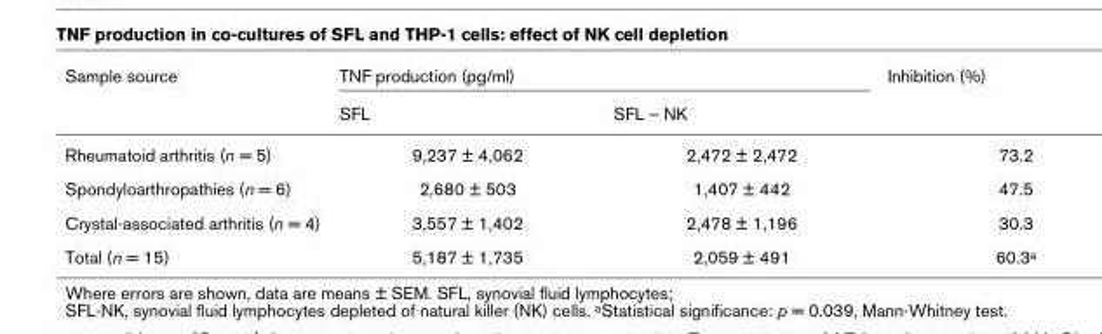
<table><thead><tr><td rowspan="2">Sample source</td><td colspan="2">TNF production (pg/ml)</td><td rowspan="2">Inhibition (%)</td></tr><tr><td>SFL</td><td>SFL – NK</td></tr></thead><tbody><tr><td>Rheumatoid arthritis (n = 5)</td><td>9,237 ± 4,062</td><td>2,472 ± 2,472</td><td>73.2</td></tr><tr><td>Spondyloarthropathies (n = 6)</td><td>2,680 ± 503</td><td>1,407 ± 442</td><td>47.5</td></tr><tr><td>Crystal-associated arthritis (n = 4)</td><td>3,557 ± 1,402</td><td>2,478 ± 1,196</td><td>30.3</td></tr><tr><td>Total (n = 15)</td><td>5,187 ± 1,735</td><td>2,059 ± 491</td><td>60.3a</td></tr></tbody></table>